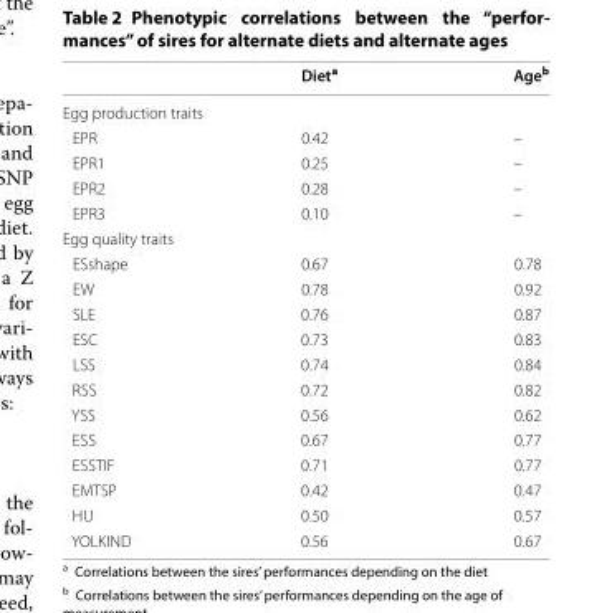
<table><thead><tr><td></td><td>Diet<sup>a</sup></td><td>Age<sup>b</sup></td></tr></thead><tbody><tr><td colspan="3">Egg production traits</td></tr><tr><td>EPR</td><td>0.42</td><td>–</td></tr><tr><td>EPR1</td><td>0.25</td><td>–</td></tr><tr><td>EPR2</td><td>0.28</td><td>–</td></tr><tr><td>EPR3</td><td>0.10</td><td>–</td></tr><tr><td colspan="3">Egg quality traits</td></tr><tr><td>ESshape</td><td>0.67</td><td>0.78</td></tr><tr><td>EW</td><td>0.78</td><td>0.92</td></tr><tr><td>SLE</td><td>0.76</td><td>0.87</td></tr><tr><td>ESC</td><td>0.73</td><td>0.83</td></tr><tr><td>LSS</td><td>0.74</td><td>0.84</td></tr><tr><td>RSS</td><td>0.72</td><td>0.82</td></tr><tr><td>YSS</td><td>0.56</td><td>0.62</td></tr><tr><td>ESS</td><td>0.67</td><td>0.77</td></tr><tr><td>ESSTIF</td><td>0.71</td><td>0.77</td></tr><tr><td>EMTSP</td><td>0.42</td><td>0.47</td></tr><tr><td>HU</td><td>0.50</td><td>0.57</td></tr><tr><td>YOLKIND</td><td>0.56</td><td>0.67</td></tr></tbody></table>